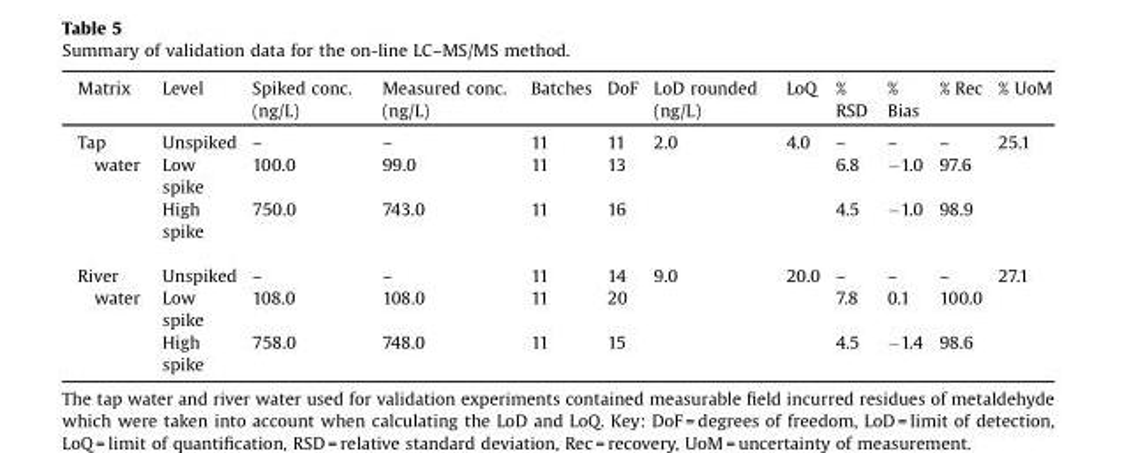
<table><thead><tr><td>Matrix</td><td>Level</td><td>Spiked conc. (ng/L)</td><td>Measured conc. (ng/L)</td><td>Batches</td><td>DoF</td><td>LoD rounded (ng/L)</td><td>LoQ</td><td>% RSD</td><td>% Bias</td><td>% Rec</td><td>% UoM</td></tr></thead><tbody><tr><td rowspan="3">Tap water</td><td>Unspiked</td><td>–</td><td>–</td><td>11</td><td>11</td><td>2.0</td><td>4.0</td><td>–</td><td>–</td><td>–</td><td>25.1</td></tr><tr><td>Low spike</td><td>100.0</td><td>99.0</td><td>11</td><td>13</td><td></td><td></td><td>6.8</td><td>−1.0</td><td>97.6</td><td></td></tr><tr><td>High spike</td><td>750.0</td><td>743.0</td><td>11</td><td>16</td><td></td><td></td><td>4.5</td><td>−1.0</td><td>98.9</td><td></td></tr><tr><td rowspan="3">River water</td><td>Unspiked</td><td>–</td><td>–</td><td>11</td><td>14</td><td>9.0</td><td>20.0</td><td>–</td><td>–</td><td>–</td><td>27.1</td></tr><tr><td>Low spike</td><td>108.0</td><td>108.0</td><td>11</td><td>20</td><td></td><td></td><td>7.8</td><td>0.1</td><td>100.0</td><td></td></tr><tr><td>High spike</td><td>758.0</td><td>748.0</td><td>11</td><td>15</td><td></td><td></td><td>4.5</td><td>−1.4</td><td>98.6</td><td></td></tr></tbody></table>